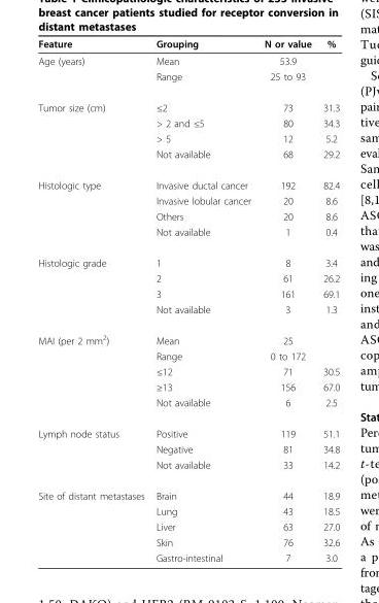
<table><thead><tr><td>Feature</td><td>Grouping</td><td>N or value</td><td>%</td></tr></thead><tbody><tr><td rowspan="2">Age (years)</td><td>Mean</td><td>53.9</td><td></td></tr><tr><td>Range</td><td>25 to 93</td><td></td></tr><tr><td rowspan="4">Tumor size (cm)</td><td>≤2</td><td>73</td><td>31.3</td></tr><tr><td>&gt; 2 and ≤5</td><td>80</td><td>34.3</td></tr><tr><td>&gt; 5</td><td>12</td><td>5.2</td></tr><tr><td>Not available</td><td>68</td><td>29.2</td></tr><tr><td rowspan="4">Histologic type</td><td>Invasive ductal cancer</td><td>192</td><td>82.4</td></tr><tr><td>Invasive lobular cancer</td><td>20</td><td>8.6</td></tr><tr><td>Others</td><td>20</td><td>8.6</td></tr><tr><td>Not available</td><td>1</td><td>0.4</td></tr><tr><td rowspan="4">Histologic grade</td><td>1</td><td>8</td><td>3.4</td></tr><tr><td>2</td><td>61</td><td>26.2</td></tr><tr><td>3</td><td>161</td><td>69.1</td></tr><tr><td>Not available</td><td>3</td><td>1.3</td></tr><tr><td rowspan="5">MAI (per 2 mm<sup>2</sup>)</td><td>Mean</td><td>25</td><td></td></tr><tr><td>Range</td><td>0 to 172</td><td></td></tr><tr><td>≤12</td><td>71</td><td>30.5</td></tr><tr><td>≥13</td><td>156</td><td>67.0</td></tr><tr><td>Not available</td><td>6</td><td>2.5</td></tr><tr><td rowspan="3">Lymph node status</td><td>Positive</td><td>119</td><td>51.1</td></tr><tr><td>Negative</td><td>81</td><td>34.8</td></tr><tr><td>Not available</td><td>33</td><td>14.2</td></tr><tr><td rowspan="5">Site of distant metastases</td><td>Brain</td><td>44</td><td>18.9</td></tr><tr><td>Lung</td><td>43</td><td>18.5</td></tr><tr><td>Liver</td><td>63</td><td>27.0</td></tr><tr><td>Skin</td><td>76</td><td>32.6</td></tr><tr><td>Gastro-intestinal</td><td>7</td><td>3.0</td></tr></tbody></table>